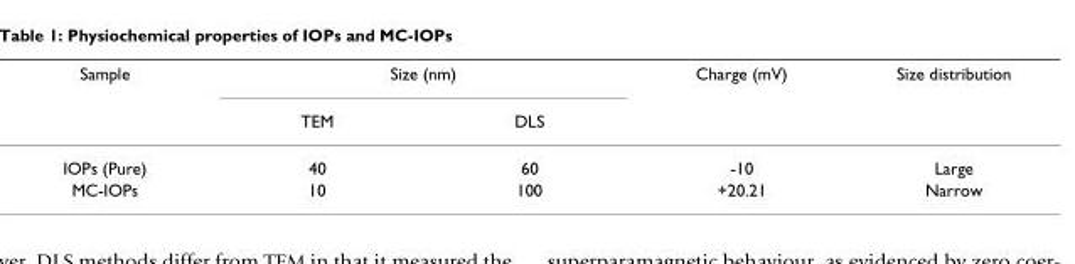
<table><thead><tr><td rowspan="2">Sample</td><td colspan="2">Size (nm)</td><td rowspan="2">Charge (mV)</td><td rowspan="2">Size distribution</td></tr><tr><td>TEM</td><td>DLS</td></tr></thead><tbody><tr><td>IOPs (Pure)</td><td>40</td><td>60</td><td>-10</td><td>Large</td></tr><tr><td>MC-IOPs</td><td>10</td><td>100</td><td>+20.21</td><td>Narrow</td></tr></tbody></table>